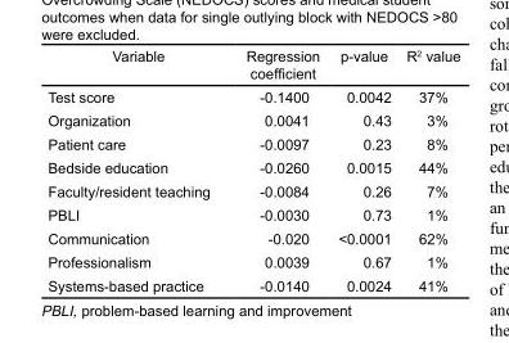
<table><thead><tr><td>Variable</td><td>Regression coefficient</td><td>p-value</td><td>R<sup>2</sup> value</td></tr></thead><tbody><tr><td>Test score</td><td>-0.1400</td><td>0.0042</td><td>37%</td></tr><tr><td>Organization</td><td>0.0041</td><td>0.43</td><td>3%</td></tr><tr><td>Patient care</td><td>-0.0097</td><td>0.23</td><td>8%</td></tr><tr><td>Bedside education</td><td>-0.0260</td><td>0.0015</td><td>44%</td></tr><tr><td>Faculty/resident teaching</td><td>-0.0084</td><td>0.26</td><td>7%</td></tr><tr><td>PBLI</td><td>-0.0030</td><td>0.73</td><td>1%</td></tr><tr><td>Communication</td><td>-0.020</td><td>&lt;0.0001</td><td>62%</td></tr><tr><td>Professionalism</td><td>0.0039</td><td>0.67</td><td>1%</td></tr><tr><td>Systems-based practice</td><td>-0.0140</td><td>0.0024</td><td>41%</td></tr></tbody></table>